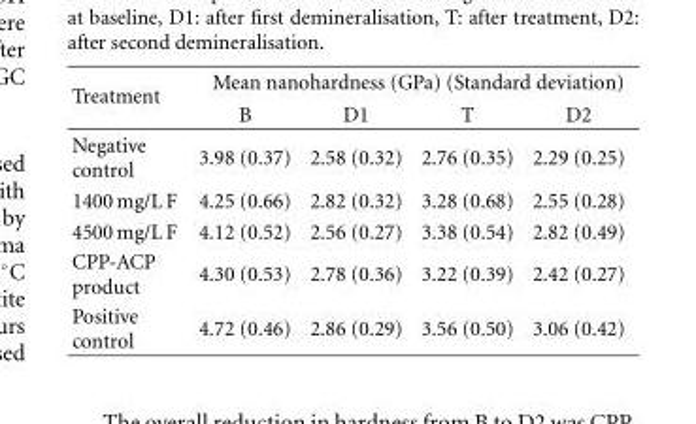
<table><thead><tr><td rowspan="2">Treatment</td><td colspan="4">Mean nanohardness (GPa) (Standard deviation)</td></tr><tr><td>B</td><td>D1</td><td>T</td><td>D2</td></tr></thead><tbody><tr><td>Negative control</td><td>3.98 (0.37)</td><td>2.58 (0.32)</td><td>2.76 (0.35)</td><td>2.29 (0.25)</td></tr><tr><td>1400 mg/L F</td><td>4.25 (0.66)</td><td>2.82 (0.32)</td><td>3.28 (0.68)</td><td>2.55 (0.28)</td></tr><tr><td>4500 mg/L F</td><td>4.12 (0.52)</td><td>2.56 (0.27)</td><td>3.38 (0.54)</td><td>2.82 (0.49)</td></tr><tr><td>CPP-ACP product</td><td>4.30 (0.53)</td><td>2.78 (0.36)</td><td>3.22 (0.39)</td><td>2.42 (0.27)</td></tr><tr><td>Positive control</td><td>4.72 (0.46)</td><td>2.86 (0.29)</td><td>3.56 (0.50)</td><td>3.06 (0.42)</td></tr></tbody></table>